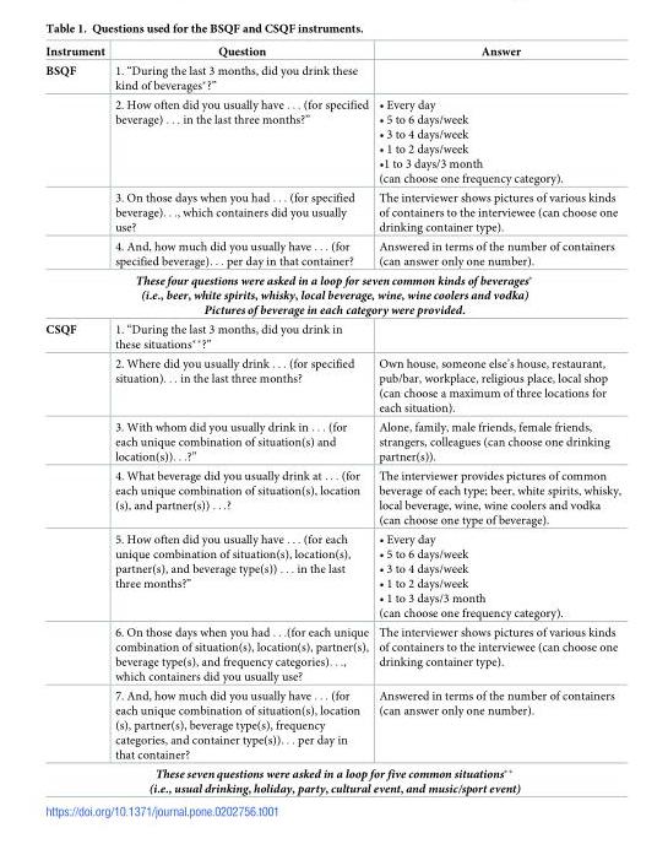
<table><thead><tr><td>Instrument</td><td>Question</td><td>Answer</td></tr></thead><tbody><tr><td rowspan="4">BSQF</td><td>1. “During the last 3 months, did you drink these kind of beverages*?”</td><td></td></tr><tr><td>2. How often did you usually have . . . (for specified beverage) . . . in the last three months?”</td><td>• Every day • 5 to 6 days/week • 3 to 4 days/week • 1 to 2 days/week •1 to 3 days/3 month (can choose one frequency category).</td></tr><tr><td>3. On those days when you had . . . (for specified beverage). . ., which containers did you usually use?</td><td>The interviewer shows pictures of various kinds of containers to the interviewee (can choose one drinking container type).</td></tr><tr><td>4. And, how much did you usually have . . . (for specified beverage). . . per day in that container?</td><td>Answered in terms of the number of containers (can answer only one number).</td></tr><tr><td colspan="3">These four questions were asked in a loop for seven common kinds of beverages* (i.e., beer, white spirits, whisky, local beverage, wine, wine coolers and vodka) Pictures of beverage in each category were provided.</td></tr><tr><td rowspan="7">CSQF</td><td>1. “During the last 3 months, did you drink in these situations**?”</td><td></td></tr><tr><td>2. Where did you usually drink . . . (for specified situation). . . in the last three months?</td><td>Own house, someone else’s house, restaurant, pub/bar, workplace, religious place, local shop (can choose a maximum of three locations for each situation).</td></tr><tr><td>3. With whom did you usually drink in . . . (for each unique combination of situation(s) and location(s)). . .?”</td><td>Alone, family, male friends, female friends, strangers, colleagues (can choose one drinking partner(s)).</td></tr><tr><td>4. What beverage did you usually drink at . . . (for each unique combination of situation(s), location (s), and partner(s)) . . .?</td><td>The interviewer provides pictures of common beverage of each type; beer, white spirits, whisky, local beverage, wine, wine coolers and vodka (can choose one type of beverage).</td></tr><tr><td>5. How often did you usually have . . . (for each unique combination of situation(s), location(s), partner(s), and beverage type(s)) . . . in the last three months?”</td><td>• Every day • 5 to 6 days/week • 3 to 4 days/week • 1 to 2 days/week • 1 to 3 days/3 month (can choose one frequency category).</td></tr><tr><td>6. On those days when you had . . .(for each unique combination of situation(s), location(s), partner(s), beverage type(s), and frequency categories). . ., which containers did you usually use?</td><td>The interviewer shows pictures of various kinds of containers to the interviewee (can choose one drinking container type).</td></tr><tr><td>7. And, how much did you usually have . . . (for each unique combination of situation(s), location (s), partner(s), beverage type(s), frequency categories, and container type(s)). . . per day in that container?</td><td>Answered in terms of the number of containers (can answer only one number).</td></tr><tr><td colspan="3">These seven questions were asked in a loop for five common situations** (i.e., usual drinking, holiday, party, cultural event, and music/sport event)</td></tr></tbody></table>